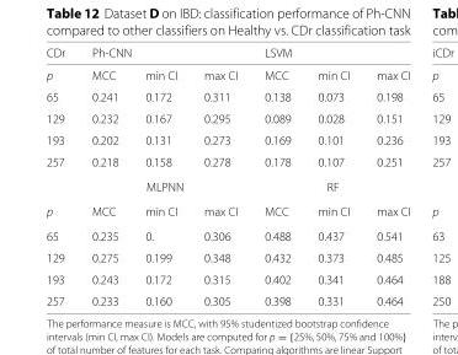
<table><thead><tr><td rowspan="2">CDr p</td><td colspan="3">Ph-CNN</td><td colspan="3">LSVM</td></tr><tr><td>MCC</td><td>min CI</td><td>max CI</td><td>MCC</td><td>min CI</td><td>max CI</td></tr></thead><tbody><tr><td>65</td><td>0.241</td><td>0.172</td><td>0.311</td><td>0.138</td><td>0.073</td><td>0.198</td></tr><tr><td>129</td><td>0.232</td><td>0.167</td><td>0.295</td><td>0.089</td><td>0.028</td><td>0.151</td></tr><tr><td>193</td><td>0.202</td><td>0.131</td><td>0.273</td><td>0.169</td><td>0.101</td><td>0.236</td></tr><tr><td rowspan="2">257</td><td>0.218</td><td>0.158</td><td>0.278</td><td>0.178</td><td>0.107</td><td>0.251</td></tr><tr><td colspan="3">MLPNN</td><td colspan="3">RF</td></tr><tr><td>p</td><td>MCC</td><td>min CI</td><td>max CI</td><td>MCC</td><td>min CI</td><td>max CI</td></tr><tr><td>65</td><td>0.235</td><td>0.</td><td>0.306</td><td>0.488</td><td>0.437</td><td>0.541</td></tr><tr><td>129</td><td>0.275</td><td>0.199</td><td>0.348</td><td>0.432</td><td>0.373</td><td>0.485</td></tr><tr><td>193</td><td>0.243</td><td>0.172</td><td>0.315</td><td>0.402</td><td>0.341</td><td>0.464</td></tr><tr><td>257</td><td>0.233</td><td>0.160</td><td>0.305</td><td>0.398</td><td>0.331</td><td>0.464</td></tr></tbody></table>